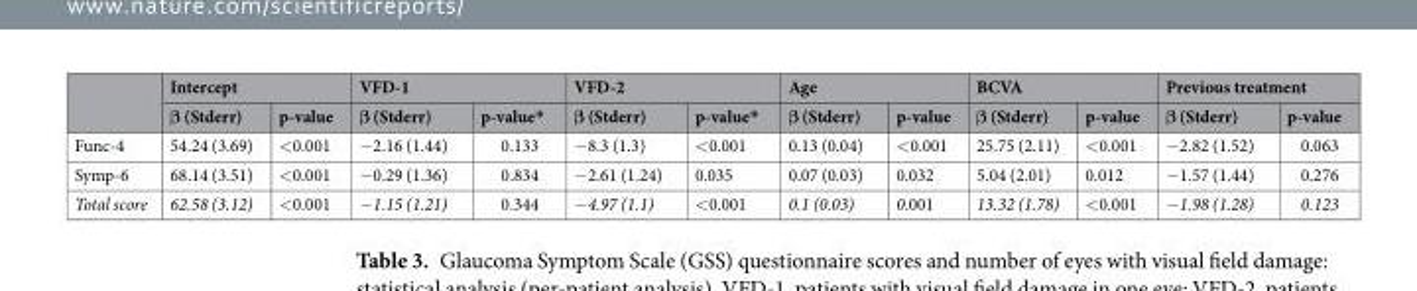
<table><thead><tr><td rowspan="2"></td><td colspan="2">Intercept</td><td colspan="2">VFD-1</td><td colspan="2">VFD-2</td><td colspan="2">Age</td><td colspan="2">BCVA</td><td colspan="2">Previous treatment</td></tr><tr><td>β (Stderr)</td><td>p-value</td><td>β (Stderr)</td><td>p-value*</td><td>β (Stderr)</td><td>p-value*</td><td>β (Stderr)</td><td>p-value</td><td>β (Stderr)</td><td>p-value</td><td>β (Stderr)</td><td>p-value</td></tr></thead><tbody><tr><td>Func-4</td><td>54.24 (3.69)</td><td>&lt;0.001</td><td>−2.16 (1.44)</td><td>0.133</td><td>−8.3 (1.3)</td><td>&lt;0.001</td><td>0.13 (0.04)</td><td>&lt;0.001</td><td>25.75 (2.11)</td><td>&lt;0.001</td><td>−2.82 (1.52)</td><td>0.063</td></tr><tr><td>Symp-6</td><td>68.14 (3.51)</td><td>&lt;0.001</td><td>−0.29 (1.36)</td><td>0.834</td><td>−2.61 (1.24)</td><td>0.035</td><td>0.07 (0.03)</td><td>0.032</td><td>5.04 (2.01)</td><td>0.012</td><td>−1.57 (1.44)</td><td>0.276</td></tr><tr><td>Total score</td><td>62.58 (3.12)</td><td>&lt;0.001</td><td>−1.15 (1.21)</td><td>0.344</td><td>−4.97 (1.1)</td><td>&lt;0.001</td><td>0.1 (0.03)</td><td>0.001</td><td>13.32 (1.78)</td><td>&lt;0.001</td><td>−1.98 (1.28)</td><td>0.123</td></tr></tbody></table>